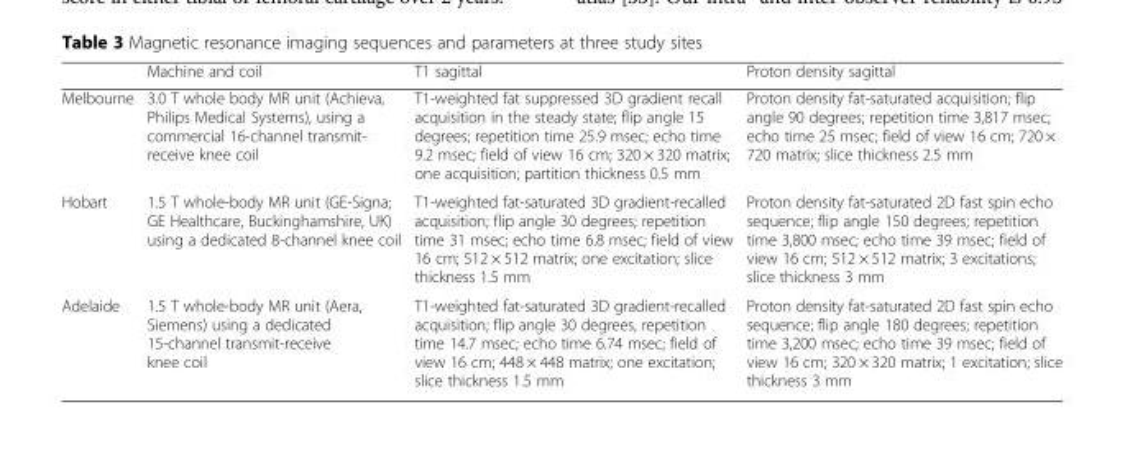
<table><thead><tr><td></td><td>Machine and coil</td><td>T1 sagittal</td><td>Proton density sagittal</td></tr></thead><tbody><tr><td>Melbourne</td><td>3.0 T whole body MR unit (Achieva, Philips Medical Systems), using a commercial 16-channel transmit- receive knee coil</td><td>T1-weighted fat suppressed 3D gradient recall acquisition in the steady state; flip angle 15 degrees; repetition time 25.9 msec; echo time 9.2 msec; field of view 16 cm; 320 × 320 matrix; one acquisition; partition thickness 0.5 mm</td><td>Proton density fat-saturated acquisition; flip angle 90 degrees; repetition time 3,817 msec; echo time 25 msec; field of view 16 cm; 720 × 720 matrix; slice thickness 2.5 mm</td></tr><tr><td>Hobart</td><td>1.5 T whole-body MR unit (GE-Signa; GE Healthcare, Buckinghamshire, UK) using a dedicated 8-channel knee coil</td><td>T1-weighted fat-saturated 3D gradient-recalled acquisition; flip angle 30 degrees; repetition time 31 msec; echo time 6.8 msec; field of view 16 cm; 512 × 512 matrix; one excitation; slice thickness 1.5 mm</td><td>Proton density fat-saturated 2D fast spin echo sequence; flip angle 150 degrees; repetition time 3,800 msec; echo time 39 msec; field of view 16 cm; 512 × 512 matrix; 3 excitations; slice thickness 3 mm</td></tr><tr><td>Adelaide</td><td>1.5 T whole-body MR unit (Aera, Siemens) using a dedicated 15-channel transmit-receive knee coil</td><td>T1-weighted fat-saturated 3D gradient-recalled acquisition; flip angle 30 degrees, repetition time 14.7 msec; echo time 6.74 msec; field of view 16 cm; 448 × 448 matrix; one excitation; slice thickness 1.5 mm</td><td>Proton density fat-saturated 2D fast spin echo sequence; flip angle 180 degrees; repetition time 3,200 msec; echo time 39 msec; field of view 16 cm; 320 × 320 matrix; 1 excitation; slice thickness 3 mm</td></tr></tbody></table>